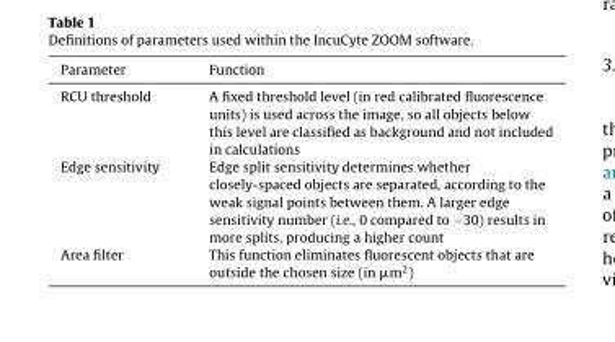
<table><thead><tr><td>Parameter</td><td>Function</td></tr></thead><tbody><tr><td>RCU threshold</td><td>A fixed threshold level (in red calibrated fluorescence units) is used across the image, so all objects below this level are classified as background and not included in calculations</td></tr><tr><td>Edge sensitivity</td><td>Edge split sensitivity determines whether closely-spaced objects are separated, according to the weak signal points between them. A larger edge sensitivity number (i.e., 0 compared to −30) results in more splits, producing a higher count</td></tr><tr><td>Area filter</td><td>This function eliminates fluorescent objects that are outside the chosen size (in μm<sup>2</sup>)</td></tr></tbody></table>